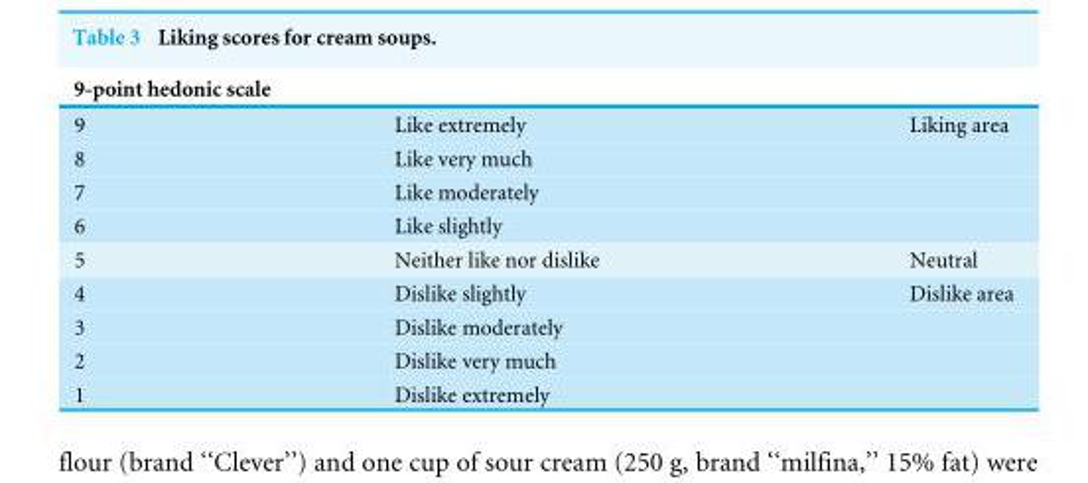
<table><thead><tr><td colspan="3">9-point hedonic scale</td></tr><tr><td>9</td><td>Like extremely</td><td>Liking area</td></tr></thead><tbody><tr><td>8</td><td>Like very much</td><td></td></tr><tr><td>7</td><td>Like moderately</td><td></td></tr><tr><td>6</td><td>Like slightly</td><td></td></tr><tr><td>5</td><td>Neither like nor dislike</td><td>Neutral</td></tr><tr><td>4</td><td>Dislike slightly</td><td>Dislike area</td></tr><tr><td>3</td><td>Dislike moderately</td><td></td></tr><tr><td>2</td><td>Dislike very much</td><td></td></tr><tr><td>1</td><td>Dislike extremely</td><td></td></tr></tbody></table>